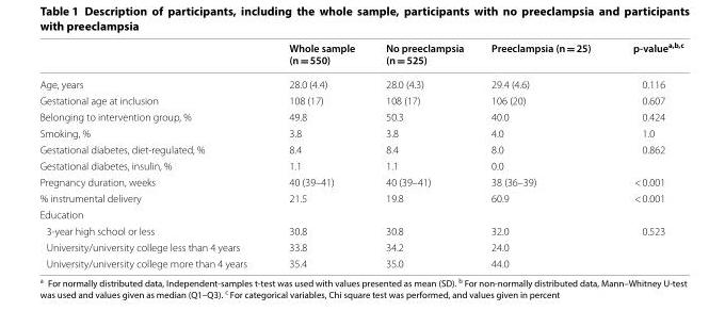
<table><thead><tr><td></td><td>Whole sample (n = 550)</td><td>No preeclampsia (n = 525)</td><td>Preeclampsia (n = 25)</td><td>p-value<sup>a,b,c</sup></td></tr></thead><tbody><tr><td>Age, years</td><td>28.0 (4.4)</td><td>28.0 (4.3)</td><td>29.4 (4.6)</td><td>0.116</td></tr><tr><td>Gestational age at inclusion</td><td>108 (17)</td><td>108 (17)</td><td>106 (20)</td><td>0.607</td></tr><tr><td>Belonging to intervention group, %</td><td>49.8</td><td>50.3</td><td>40.0</td><td>0.424</td></tr><tr><td>Smoking, %</td><td>3.8</td><td>3.8</td><td>4.0</td><td>1.0</td></tr><tr><td>Gestational diabetes, diet‑regulated, %</td><td>8.4</td><td>8.4</td><td>8.0</td><td rowspan="2">0.862</td></tr><tr><td>Gestational diabetes, insulin, %</td><td>1.1</td><td>1.1</td><td>0.0</td></tr><tr><td>Pregnancy duration, weeks</td><td>40 (39–41)</td><td>40 (39–41)</td><td>38 (36–39)</td><td>&lt; 0.001</td></tr><tr><td>% instrumental delivery</td><td>21.5</td><td>19.8</td><td>60.9</td><td>&lt; 0.001</td></tr><tr><td colspan="5">Education</td></tr><tr><td>3‑year high school or less</td><td>30.8</td><td>30.8</td><td>32.0</td><td rowspan="3">0.523</td></tr><tr><td>University/university college less than 4 years</td><td>33.8</td><td>34.2</td><td>24.0</td></tr><tr><td>University/university college more than 4 years</td><td>35.4</td><td>35.0</td><td>44.0</td></tr></tbody></table>